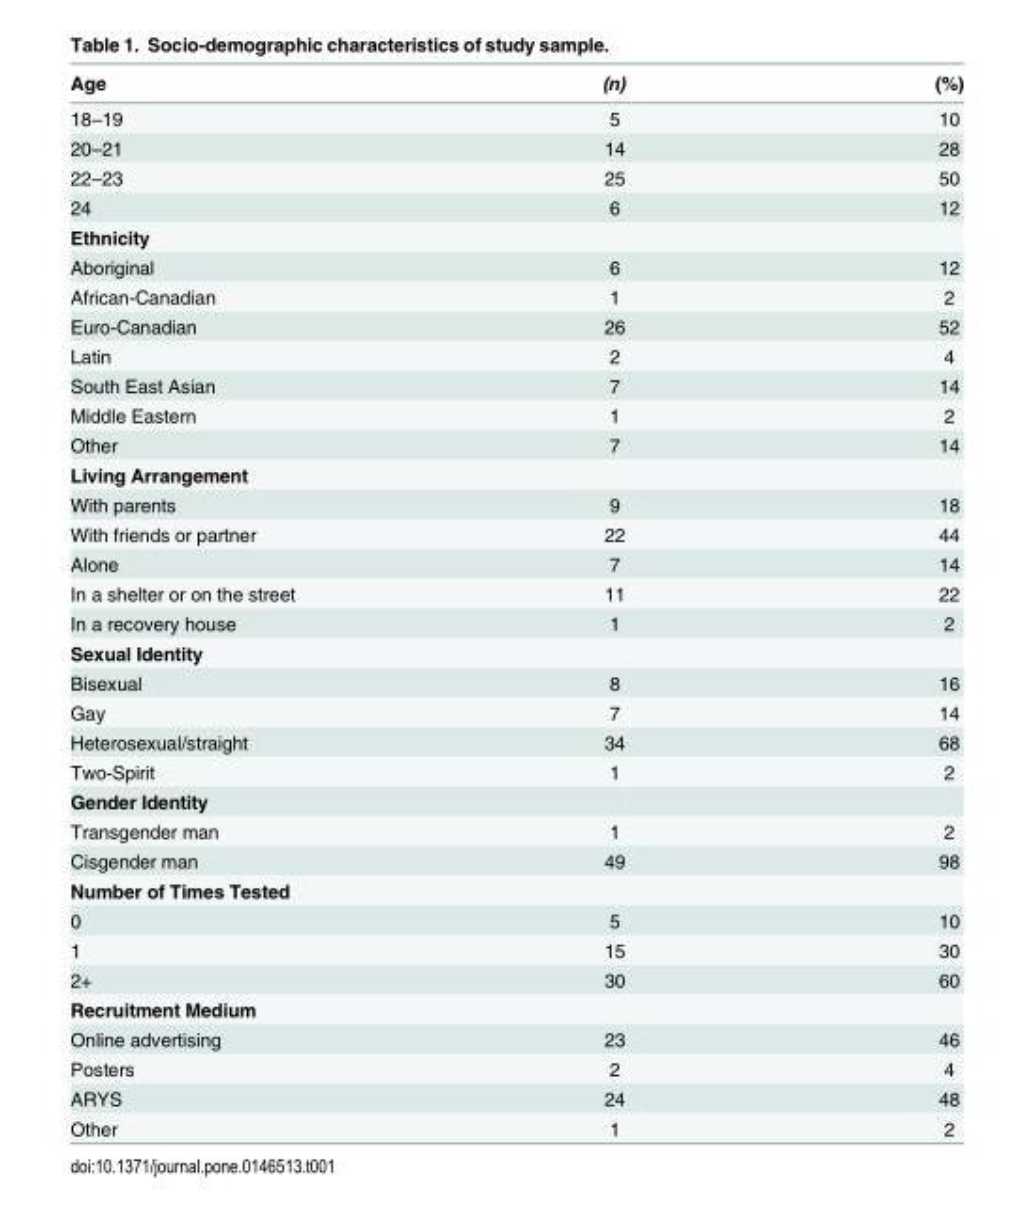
<table><thead><tr><td>Age</td><td>(n)</td><td>(%)</td></tr></thead><tbody><tr><td>18–19</td><td>5</td><td>10</td></tr><tr><td>20–21</td><td>14</td><td>28</td></tr><tr><td>22–23</td><td>25</td><td>50</td></tr><tr><td>24</td><td>6</td><td>12</td></tr><tr><td colspan="3">Ethnicity</td></tr><tr><td>Aboriginal</td><td>6</td><td>12</td></tr><tr><td>African-Canadian</td><td>1</td><td>2</td></tr><tr><td>Euro-Canadian</td><td>26</td><td>52</td></tr><tr><td>Latin</td><td>2</td><td>4</td></tr><tr><td>South East Asian</td><td>7</td><td>14</td></tr><tr><td>Middle Eastern</td><td>1</td><td>2</td></tr><tr><td>Other</td><td>7</td><td>14</td></tr><tr><td colspan="3">Living Arrangement</td></tr><tr><td>With parents</td><td>9</td><td>18</td></tr><tr><td>With friends or partner</td><td>22</td><td>44</td></tr><tr><td>Alone</td><td>7</td><td>14</td></tr><tr><td>In a shelter or on the street</td><td>11</td><td>22</td></tr><tr><td>In a recovery house</td><td>1</td><td>2</td></tr><tr><td colspan="3">Sexual Identity</td></tr><tr><td>Bisexual</td><td>8</td><td>16</td></tr><tr><td>Gay</td><td>7</td><td>14</td></tr><tr><td>Heterosexual/straight</td><td>34</td><td>68</td></tr><tr><td>Two-Spirit</td><td>1</td><td>2</td></tr><tr><td colspan="3">Gender Identity</td></tr><tr><td>Transgender man</td><td>1</td><td>2</td></tr><tr><td>Cisgender man</td><td>49</td><td>98</td></tr><tr><td colspan="3">Number of Times Tested</td></tr><tr><td>0</td><td>5</td><td>10</td></tr><tr><td>1</td><td>15</td><td>30</td></tr><tr><td>2+</td><td>30</td><td>60</td></tr><tr><td colspan="3">Recruitment Medium</td></tr><tr><td>Online advertising</td><td>23</td><td>46</td></tr><tr><td>Posters</td><td>2</td><td>4</td></tr><tr><td>ARYS</td><td>24</td><td>48</td></tr><tr><td>Other</td><td>1</td><td>2</td></tr></tbody></table>